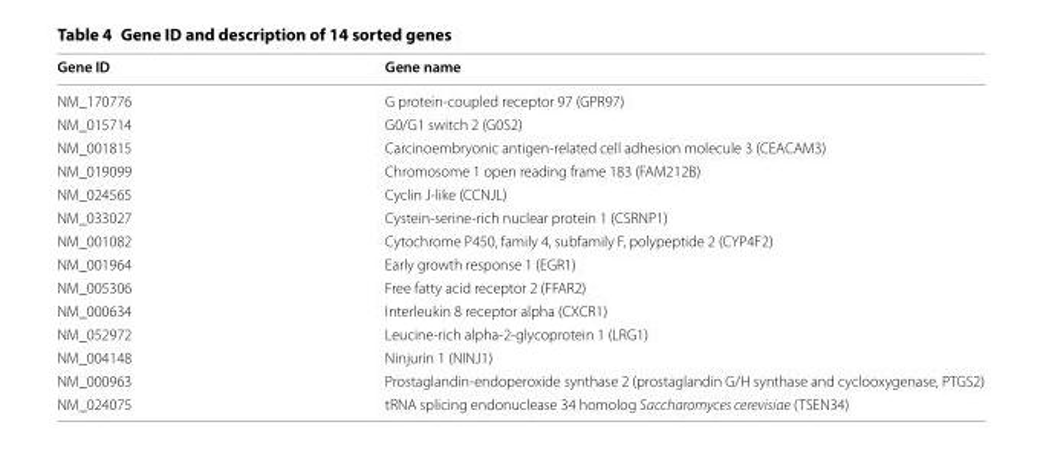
<table><thead><tr><td>Gene ID</td><td>Gene name</td></tr></thead><tbody><tr><td>NM_170776</td><td>G protein‑coupled receptor 97 (GPR97)</td></tr><tr><td>NM_015714</td><td>G0/G1 switch 2 (G0S2)</td></tr><tr><td>NM_001815</td><td>Carcinoembryonic antigen‑related cell adhesion molecule 3 (CEACAM3)</td></tr><tr><td>NM_019099</td><td>Chromosome 1 open reading frame 183 (FAM212B)</td></tr><tr><td>NM_024565</td><td>Cyclin J‑like (CCNJL)</td></tr><tr><td>NM_033027</td><td>Cystein‑serine‑rich nuclear protein 1 (CSRNP1)</td></tr><tr><td>NM_001082</td><td>Cytochrome P450, family 4, subfamily F, polypeptide 2 (CYP4F2)</td></tr><tr><td>NM_001964</td><td>Early growth response 1 (EGR1)</td></tr><tr><td>NM_005306</td><td>Free fatty acid receptor 2 (FFAR2)</td></tr><tr><td>NM_000634</td><td>Interleukin 8 receptor alpha (CXCR1)</td></tr><tr><td>NM_052972</td><td>Leucine‑rich alpha‑2‑glycoprotein 1 (LRG1)</td></tr><tr><td>NM_004148</td><td>Ninjurin 1 (NINJ1)</td></tr><tr><td>NM_000963</td><td>Prostaglandin‑endoperoxide synthase 2 (prostaglandin G/H synthase and cyclooxygenase, PTGS2)</td></tr><tr><td>NM_024075</td><td>tRNA splicing endonuclease 34 homolog Saccharomyces cerevisiae (TSEN34)</td></tr></tbody></table>